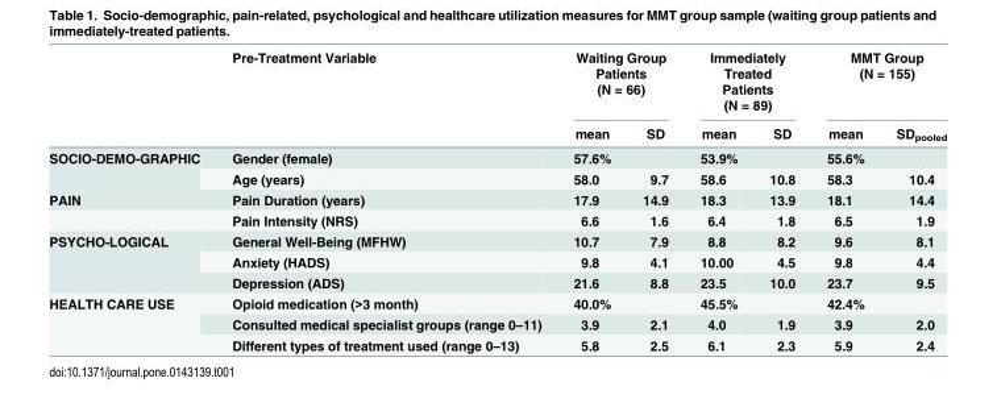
<table><thead><tr><td rowspan="2"></td><td rowspan="2">Pre-Treatment Variable</td><td colspan="2">Waiting Group Patients (N = 66)</td><td colspan="2">Immediately Treated Patients (N = 89)</td><td colspan="2">MMT Group (N = 155)</td></tr><tr><td>mean</td><td>SD</td><td>mean</td><td>SD</td><td>mean</td><td>SD<sub>pooled</sub></td></tr></thead><tbody><tr><td rowspan="2">SOCIO-DEMO-GRAPHIC</td><td>Gender (female)</td><td>57.6%</td><td></td><td>53.9%</td><td></td><td>55.6%</td><td></td></tr><tr><td>Age (years)</td><td>58.0</td><td>9.7</td><td>58.6</td><td>10.8</td><td>58.3</td><td>10.4</td></tr><tr><td rowspan="2">PAIN</td><td>Pain Duration (years)</td><td>17.9</td><td>14.9</td><td>18.3</td><td>13.9</td><td>18.1</td><td>14.4</td></tr><tr><td>Pain Intensity (NRS)</td><td>6.6</td><td>1.6</td><td>6.4</td><td>1.8</td><td>6.5</td><td>1.9</td></tr><tr><td rowspan="3">PSYCHO-LOGICAL</td><td>General Well-Being (MFHW)</td><td>10.7</td><td>7.9</td><td>8.8</td><td>8.2</td><td>9.6</td><td>8.1</td></tr><tr><td>Anxiety (HADS)</td><td>9.8</td><td>4.1</td><td>10.00</td><td>4.5</td><td>9.8</td><td>4.4</td></tr><tr><td>Depression (ADS)</td><td>21.6</td><td>8.8</td><td>23.5</td><td>10.0</td><td>23.7</td><td>9.5</td></tr><tr><td rowspan="3">HEALTH CARE USE</td><td>Opioid medication (&gt;3 month)</td><td>40.0%</td><td></td><td>45.5%</td><td></td><td>42.4%</td><td></td></tr><tr><td>Consulted medical specialist groups (range 0–11)</td><td>3.9</td><td>2.1</td><td>4.0</td><td>1.9</td><td>3.9</td><td>2.0</td></tr><tr><td>Different types of treatment used (range 0–13)</td><td>5.8</td><td>2.5</td><td>6.1</td><td>2.3</td><td>5.9</td><td>2.4</td></tr></tbody></table>